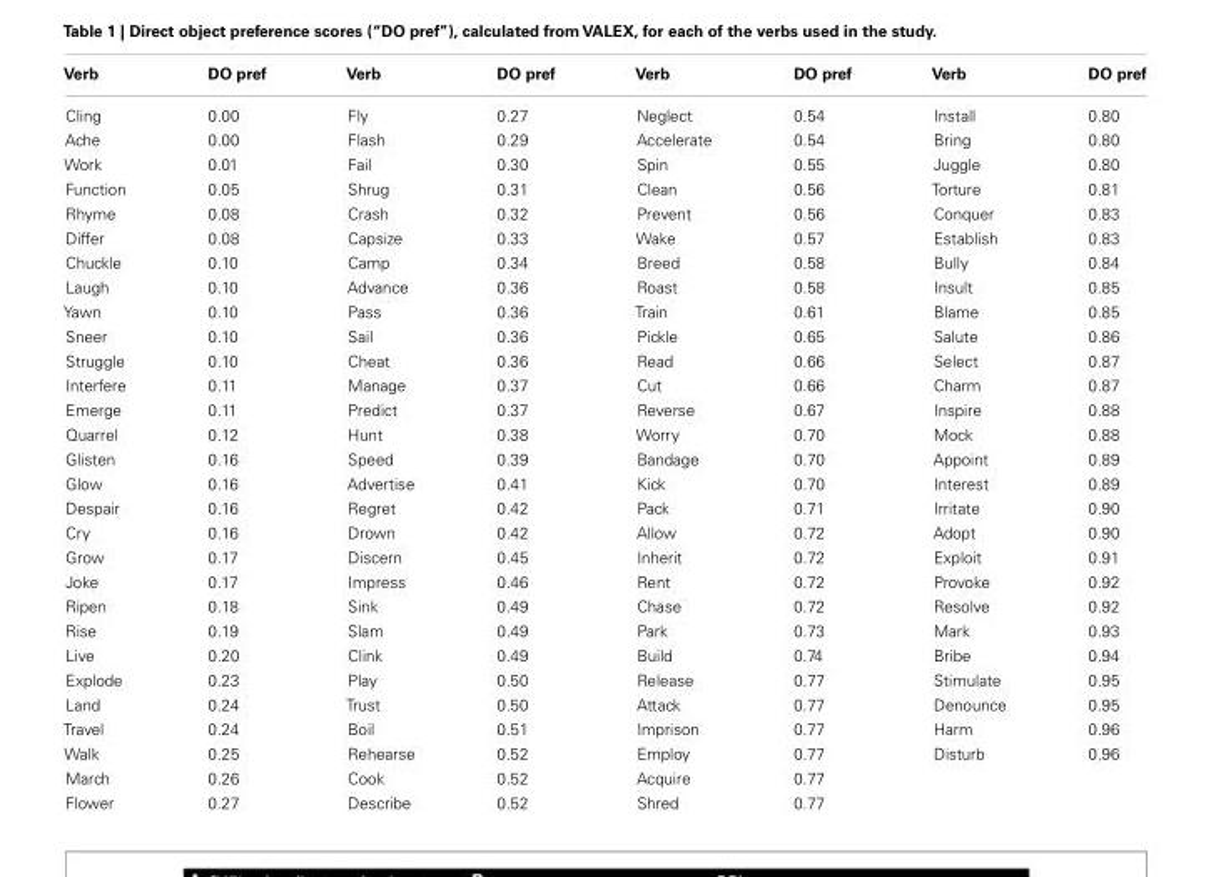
<table><thead><tr><td>Verb</td><td>DO pref</td><td>Verb</td><td>DO pref</td><td>Verb</td><td>DO pref</td><td>Verb</td><td>DO pref</td></tr></thead><tbody><tr><td>Cling</td><td>0.00</td><td>Fly</td><td>0.27</td><td>Neglect</td><td>0.54</td><td>Install</td><td>0.80</td></tr><tr><td>Ache</td><td>0.00</td><td>Flash</td><td>0.29</td><td>Accelerate</td><td>0.54</td><td>Bring</td><td>0.80</td></tr><tr><td>Work</td><td>0.01</td><td>Fail</td><td>0.30</td><td>Spin</td><td>0.55</td><td>Juggle</td><td>0.80</td></tr><tr><td>Function</td><td>0.05</td><td>Shrug</td><td>0.31</td><td>Clean</td><td>0.56</td><td>Torture</td><td>0.81</td></tr><tr><td>Rhyme</td><td>0.08</td><td>Crash</td><td>0.32</td><td>Prevent</td><td>0.56</td><td>Conquer</td><td>0.83</td></tr><tr><td>Differ</td><td>0.08</td><td>Capsize</td><td>0.33</td><td>Wake</td><td>0.57</td><td>Establish</td><td>0.83</td></tr><tr><td>Chuckle</td><td>0.10</td><td>Camp</td><td>0.34</td><td>Breed</td><td>0.58</td><td>Bully</td><td>0.84</td></tr><tr><td>Laugh</td><td>0.10</td><td>Advance</td><td>0.36</td><td>Roast</td><td>0.58</td><td>Insult</td><td>0.85</td></tr><tr><td>Yawn</td><td>0.10</td><td>Pass</td><td>0.36</td><td>Train</td><td>0.61</td><td>Blame</td><td>0.85</td></tr><tr><td>Sneer</td><td>0.10</td><td>Sail</td><td>0.36</td><td>Pickle</td><td>0.65</td><td>Salute</td><td>0.86</td></tr><tr><td>Struggle</td><td>0.10</td><td>Cheat</td><td>0.36</td><td>Read</td><td>0.66</td><td>Select</td><td>0.87</td></tr><tr><td>Interfere</td><td>0.11</td><td>Manage</td><td>0.37</td><td>Cut</td><td>0.66</td><td>Charm</td><td>0.87</td></tr><tr><td>Emerge</td><td>0.11</td><td>Predict</td><td>0.37</td><td>Reverse</td><td>0.67</td><td>Inspire</td><td>0.88</td></tr><tr><td>Quarrel</td><td>0.12</td><td>Hunt</td><td>0.38</td><td>Worry</td><td>0.70</td><td>Mock</td><td>0.88</td></tr><tr><td>Glisten</td><td>0.16</td><td>Speed</td><td>0.39</td><td>Bandage</td><td>0.70</td><td>Appoint</td><td>0.89</td></tr><tr><td>Glow</td><td>0.16</td><td>Advertise</td><td>0.41</td><td>Kick</td><td>0.70</td><td>Interest</td><td>0.89</td></tr><tr><td>Despair</td><td>0.16</td><td>Regret</td><td>0.42</td><td>Pack</td><td>0.71</td><td>Irritate</td><td>0.90</td></tr><tr><td>Cry</td><td>0.16</td><td>Drown</td><td>0.42</td><td>Allow</td><td>0.72</td><td>Adopt</td><td>0.90</td></tr><tr><td>Grow</td><td>0.17</td><td>Discern</td><td>0.45</td><td>Inherit</td><td>0.72</td><td>Exploit</td><td>0.91</td></tr><tr><td>Joke</td><td>0.17</td><td>Impress</td><td>0.46</td><td>Rent</td><td>0.72</td><td>Provoke</td><td>0.92</td></tr><tr><td>Ripen</td><td>0.18</td><td>Sink</td><td>0.49</td><td>Chase</td><td>0.72</td><td>Resolve</td><td>0.92</td></tr><tr><td>Rise</td><td>0.19</td><td>Slam</td><td>0.49</td><td>Park</td><td>0.73</td><td>Mark</td><td>0.93</td></tr><tr><td>Live</td><td>0.20</td><td>Clink</td><td>0.49</td><td>Build</td><td>0.74</td><td>Bribe</td><td>0.94</td></tr><tr><td>Explode</td><td>0.23</td><td>Play</td><td>0.50</td><td>Release</td><td>0.77</td><td>Stimulate</td><td>0.95</td></tr><tr><td>Land</td><td>0.24</td><td>Trust</td><td>0.50</td><td>Attack</td><td>0.77</td><td>Denounce</td><td>0.95</td></tr><tr><td>Travel</td><td>0.24</td><td>Boil</td><td>0.51</td><td>Imprison</td><td>0.77</td><td>Harm</td><td>0.96</td></tr><tr><td>Walk</td><td>0.25</td><td>Rehearse</td><td>0.52</td><td>Employ</td><td>0.77</td><td>Disturb</td><td>0.96</td></tr><tr><td>March</td><td>0.26</td><td>Cook</td><td>0.52</td><td>Acquire</td><td>0.77</td><td></td><td></td></tr><tr><td>Flower</td><td>0.27</td><td>Describe</td><td>0.52</td><td>Shred</td><td>0.77</td><td></td><td></td></tr></tbody></table>